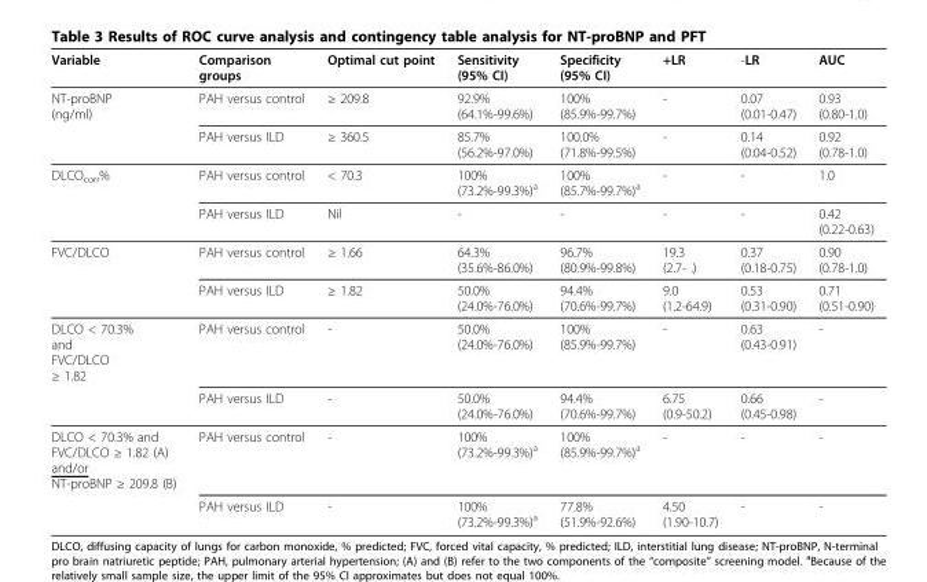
<table><thead><tr><td>Variable</td><td>Comparison groups</td><td>Optimal cut point</td><td>Sensitivity (95% CI)</td><td>Specificity (95% CI)</td><td>+LR</td><td>-LR</td><td>AUC</td></tr></thead><tbody><tr><td rowspan="2">NT-proBNP (ng/ml)</td><td>PAH versus control</td><td>≥ 209.8</td><td>92.9% (64.1%-99.6%)</td><td>100% (85.9%-99.7%)</td><td>-</td><td>0.07 (0.01-0.47)</td><td>0.93 (0.80-1.0)</td></tr><tr><td>PAH versus ILD</td><td>≥ 360.5</td><td>85.7% (56.2%-97.0%)</td><td>100.0% (71.8%-99.5%)</td><td>-</td><td>0.14 (0.04-0.52)</td><td>0.92 (0.78-1.0)</td></tr><tr><td rowspan="2">DLCO<sub>corr</sub>%</td><td>PAH versus control</td><td>&lt; 70.3</td><td>100% (73.2%-99.3%)<sup>a</sup></td><td>100% (85.7%-99.7%)<sup>a</sup></td><td>-</td><td>-</td><td>1.0</td></tr><tr><td>PAH versus ILD</td><td>Nil</td><td>-</td><td>-</td><td>-</td><td>-</td><td>0.42 (0.22-0.63)</td></tr><tr><td rowspan="2">FVC/DLCO</td><td>PAH versus control</td><td>≥ 1.66</td><td>64.3% (35.6%-86.0%)</td><td>96.7% (80.9%-99.8%)</td><td>19.3 (2.7- .)</td><td>0.37 (0.18-0.75)</td><td>0.90 (0.78-1.0)</td></tr><tr><td>PAH versus ILD</td><td>≥ 1.82</td><td>50.0% (24.0%-76.0%)</td><td>94.4% (70.6%-99.7%)</td><td>9.0 (1.2-64.9)</td><td>0.53 (0.31-0.90)</td><td>0.71 (0.51-0.90)</td></tr><tr><td rowspan="2">DLCO &lt; 70.3% and FVC/DLCO ≥ 1.82</td><td>PAH versus control</td><td>-</td><td>50.0% (24.0%-76.0%)</td><td>100% (85.9%-99.7%)</td><td>-</td><td>0.63 (0.43-0.91)</td><td>-</td></tr><tr><td>PAH versus ILD</td><td>-</td><td>50.0% (24.0%-76.0%)</td><td>94.4% (70.6%-99.7%)</td><td>6.75 (0.9-50.2)</td><td>0.66 (0.45-0.98)</td><td>-</td></tr><tr><td rowspan="2">DLCO &lt; 70.3% and FVC/DLCO ≥ 1.82 (A) and/or NT-proBNP ≥ 209.8 (B)</td><td>PAH versus control</td><td>-</td><td>100% (73.2%-99.3%)<sup>a</sup></td><td>100% (85.9%-99.7%)<sup>a</sup></td><td>-</td><td>-</td><td>-</td></tr><tr><td>PAH versus ILD</td><td>-</td><td>100% (73.2%-99.3%)<sup>a</sup></td><td>77.8% (51.9%-92.6%)</td><td>4.50 (1.90-10.7)</td><td>-</td><td>-</td></tr></tbody></table>